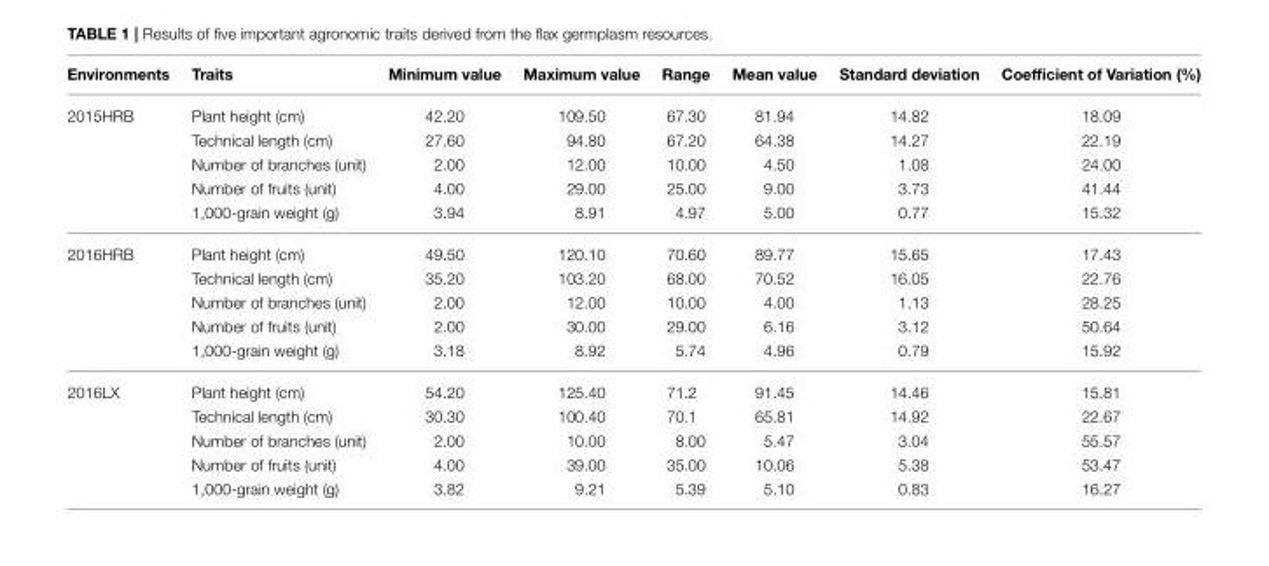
<table><thead><tr><td>Environments</td><td>Traits</td><td>Minimum value</td><td>Maximum value</td><td>Range</td><td>Mean value</td><td>Standard deviation</td><td>Coefficient of Variation (%)</td></tr></thead><tbody><tr><td rowspan="5">2015HRB</td><td>Plant height (cm)</td><td>42.20</td><td>109.50</td><td>67.30</td><td>81.94</td><td>14.82</td><td>18.09</td></tr><tr><td>Technical length (cm)</td><td>27.60</td><td>94.80</td><td>67.20</td><td>64.38</td><td>14.27</td><td>22.19</td></tr><tr><td>Number of branches (unit)</td><td>2.00</td><td>12.00</td><td>10.00</td><td>4.50</td><td>1.08</td><td>24.00</td></tr><tr><td>Number of fruits (unit)</td><td>4.00</td><td>29.00</td><td>25.00</td><td>9.00</td><td>3.73</td><td>41.44</td></tr><tr><td>1,000-grain weight (g)</td><td>3.94</td><td>8.91</td><td>4.97</td><td>5.00</td><td>0.77</td><td>15.32</td></tr><tr><td rowspan="5">2016HRB</td><td>Plant height (cm)</td><td>49.50</td><td>120.10</td><td>70.60</td><td>89.77</td><td>15.65</td><td>17.43</td></tr><tr><td>Technical length (cm)</td><td>35.20</td><td>103.20</td><td>68.00</td><td>70.52</td><td>16.05</td><td>22.76</td></tr><tr><td>Number of branches (unit)</td><td>2.00</td><td>12.00</td><td>10.00</td><td>4.00</td><td>1.13</td><td>28.25</td></tr><tr><td>Number of fruits (unit)</td><td>2.00</td><td>30.00</td><td>29.00</td><td>6.16</td><td>3.12</td><td>50.64</td></tr><tr><td>1,000-grain weight (g)</td><td>3.18</td><td>8.92</td><td>5.74</td><td>4.96</td><td>0.79</td><td>15.92</td></tr><tr><td rowspan="5">2016LX</td><td>Plant height (cm)</td><td>54.20</td><td>125.40</td><td>71.2</td><td>91.45</td><td>14.46</td><td>15.81</td></tr><tr><td>Technical length (cm)</td><td>30.30</td><td>100.40</td><td>70.1</td><td>65.81</td><td>14.92</td><td>22.67</td></tr><tr><td>Number of branches (unit)</td><td>2.00</td><td>10.00</td><td>8.00</td><td>5.47</td><td>3.04</td><td>55.57</td></tr><tr><td>Number of fruits (unit)</td><td>4.00</td><td>39.00</td><td>35.00</td><td>10.06</td><td>5.38</td><td>53.47</td></tr><tr><td>1,000-grain weight (g)</td><td>3.82</td><td>9.21</td><td>5.39</td><td>5.10</td><td>0.83</td><td>16.27</td></tr></tbody></table>